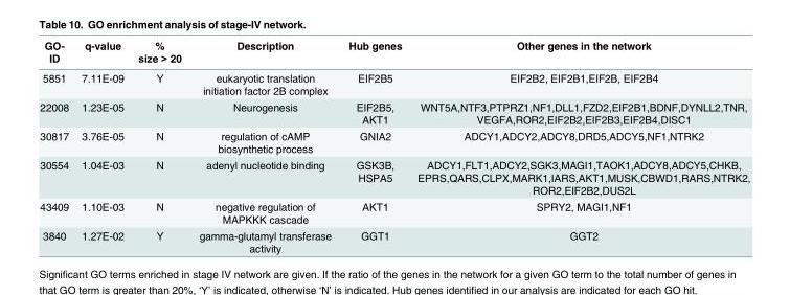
<table><thead><tr><td>GO- ID</td><td>q-value</td><td>% size &gt; 20</td><td>Description</td><td>Hub genes</td><td>Other genes in the network</td></tr></thead><tbody><tr><td>5851</td><td>7.11E-09</td><td>Y</td><td>eukaryotic translation initiation factor 2B complex</td><td>EIF2B5</td><td>EIF2B2, EIF2B1,EIF2B, EIF2B4</td></tr><tr><td>22008</td><td>1.23E-05</td><td>N</td><td>Neurogenesis</td><td>EIF2B5, AKT1</td><td>WNT5A,NTF3,PTPRZ1,NF1,DLL1,FZD2,EIF2B1,BDNF,DYNLL2,TNR, VEGFA,ROR2,EIF2B2,EIF2B3,EIF2B4,DISC1</td></tr><tr><td>30817</td><td>3.76E-05</td><td>N</td><td>regulation of cAMP biosynthetic process</td><td>GNIA2</td><td>ADCY1,ADCY2,ADCY8,DRD5,ADCY5,NF1,NTRK2</td></tr><tr><td>30554</td><td>1.04E-03</td><td>N</td><td>adenyl nucleotide binding</td><td>GSK3B, HSPA5</td><td>ADCY1,FLT1,ADCY2,SGK3,MAGI1,TAOK1,ADCY8,ADCY5,CHKB, EPRS,QARS,CLPX,MARK1,IARS,AKT1,MUSK,CBWD1,RARS,NTRK2, ROR2,EIF2B2,DUS2L</td></tr><tr><td>43409</td><td>1.10E-03</td><td>N</td><td>negative regulation of MAPKKK cascade</td><td>AKT1</td><td>SPRY2, MAGI1,NF1</td></tr><tr><td>3840</td><td>1.27E-02</td><td>Y</td><td>gamma-glutamyl transferase activity</td><td>GGT1</td><td>GGT2</td></tr></tbody></table>